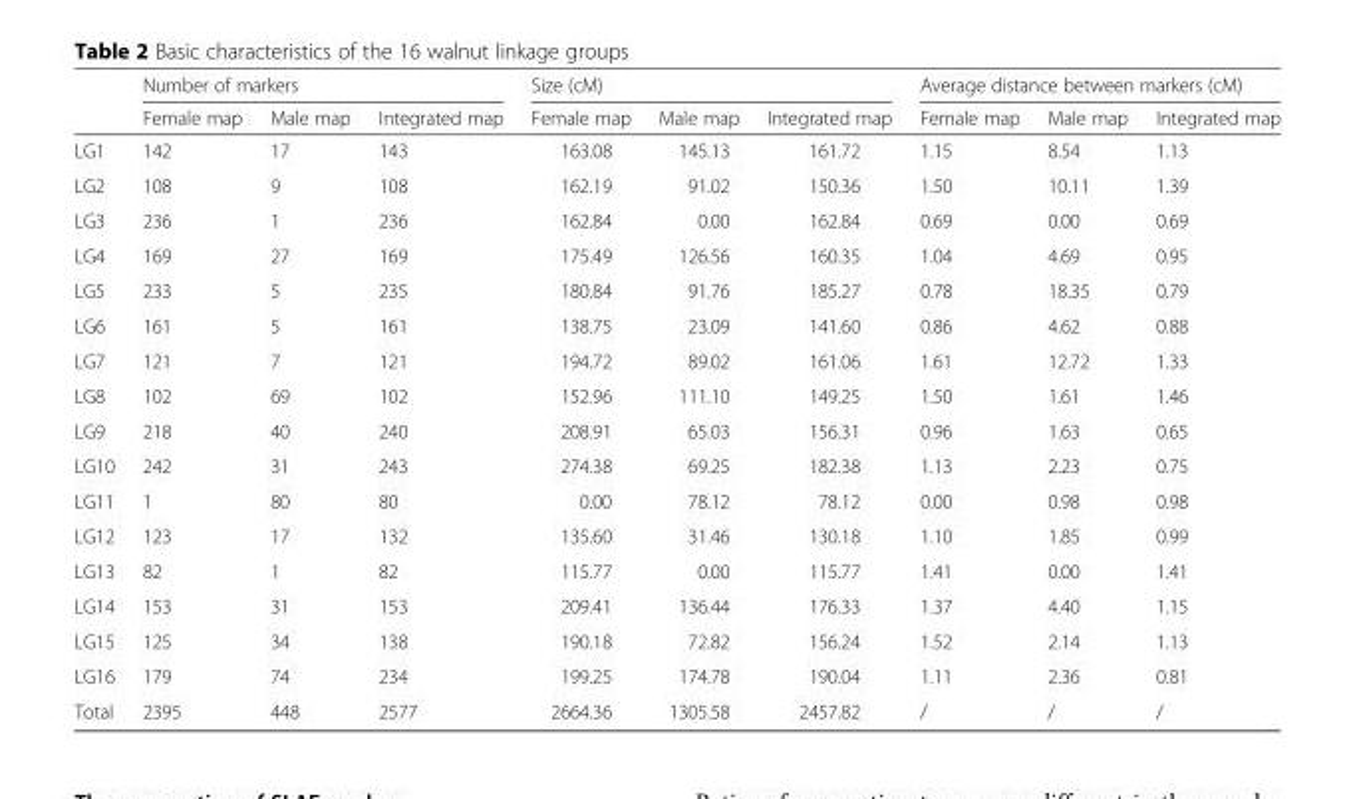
<table><thead><tr><td rowspan="2"></td><td colspan="3">Number of markers</td><td colspan="3">Size (cM)</td><td colspan="3">Average distance between markers (cM)</td></tr><tr><td>Female map</td><td>Male map</td><td>Integrated map</td><td>Female map</td><td>Male map</td><td>Integrated map</td><td>Female map</td><td>Male map</td><td>Integrated map</td></tr></thead><tbody><tr><td>LG1</td><td>142</td><td>17</td><td>143</td><td>163.08</td><td>145.13</td><td>161.72</td><td>1.15</td><td>8.54</td><td>1.13</td></tr><tr><td>LG2</td><td>108</td><td>9</td><td>108</td><td>162.19</td><td>91.02</td><td>150.36</td><td>1.50</td><td>10.11</td><td>1.39</td></tr><tr><td>LG3</td><td>236</td><td>1</td><td>236</td><td>162.84</td><td>0.00</td><td>162.84</td><td>0.69</td><td>0.00</td><td>0.69</td></tr><tr><td>LG4</td><td>169</td><td>27</td><td>169</td><td>175.49</td><td>126.56</td><td>160.35</td><td>1.04</td><td>4.69</td><td>0.95</td></tr><tr><td>LG5</td><td>233</td><td>5</td><td>235</td><td>180.84</td><td>91.76</td><td>185.27</td><td>0.78</td><td>18.35</td><td>0.79</td></tr><tr><td>LG6</td><td>161</td><td>5</td><td>161</td><td>138.75</td><td>23.09</td><td>141.60</td><td>0.86</td><td>4.62</td><td>0.88</td></tr><tr><td>LG7</td><td>121</td><td>7</td><td>121</td><td>194.72</td><td>89.02</td><td>161.06</td><td>1.61</td><td>12.72</td><td>1.33</td></tr><tr><td>LG8</td><td>102</td><td>69</td><td>102</td><td>152.96</td><td>111.10</td><td>149.25</td><td>1.50</td><td>1.61</td><td>1.46</td></tr><tr><td>LG9</td><td>218</td><td>40</td><td>240</td><td>208.91</td><td>65.03</td><td>156.31</td><td>0.96</td><td>1.63</td><td>0.65</td></tr><tr><td>LG10</td><td>242</td><td>31</td><td>243</td><td>274.38</td><td>69.25</td><td>182.38</td><td>1.13</td><td>2.23</td><td>0.75</td></tr><tr><td>LG11</td><td>1</td><td>80</td><td>80</td><td>0.00</td><td>78.12</td><td>78.12</td><td>0.00</td><td>0.98</td><td>0.98</td></tr><tr><td>LG12</td><td>123</td><td>17</td><td>132</td><td>135.60</td><td>31.46</td><td>130.18</td><td>1.10</td><td>1.85</td><td>0.99</td></tr><tr><td>LG13</td><td>82</td><td>1</td><td>82</td><td>115.77</td><td>0.00</td><td>115.77</td><td>1.41</td><td>0.00</td><td>1.41</td></tr><tr><td>LG14</td><td>153</td><td>31</td><td>153</td><td>209.41</td><td>136.44</td><td>176.33</td><td>1.37</td><td>4.40</td><td>1.15</td></tr><tr><td>LG15</td><td>125</td><td>34</td><td>138</td><td>190.18</td><td>72.82</td><td>156.24</td><td>1.52</td><td>2.14</td><td>1.13</td></tr><tr><td>LG16</td><td>179</td><td>74</td><td>234</td><td>199.25</td><td>174.78</td><td>190.04</td><td>1.11</td><td>2.36</td><td>0.81</td></tr><tr><td>Total</td><td>2395</td><td>448</td><td>2577</td><td>2664.36</td><td>1305.58</td><td>2457.82</td><td>/</td><td>/</td><td>/</td></tr></tbody></table>